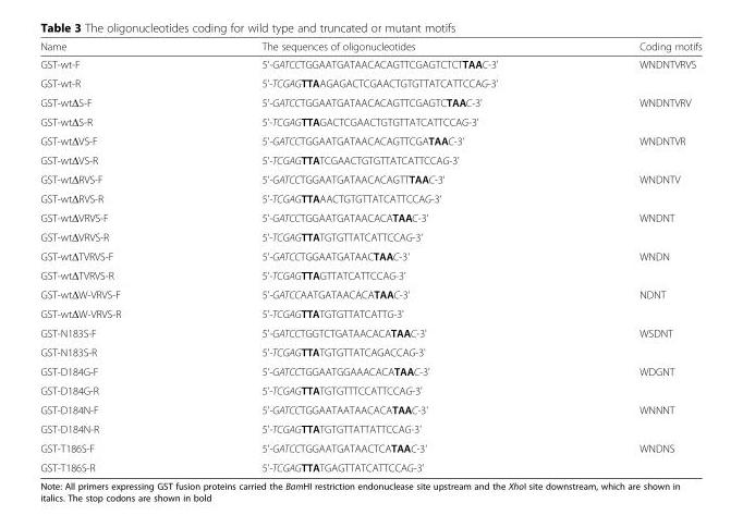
<table><thead><tr><td>Name</td><td>The sequences of oligonucleotides</td><td>Coding motifs</td></tr></thead><tbody><tr><td>GST-wt-F</td><td>5&#x27;-GATCCTGGAATGATAACACAGTTCGAGTCTCTTAAC-3&#x27;</td><td>WNDNTVRVS</td></tr><tr><td>GST-wt-R</td><td>5&#x27;-TCGAGTTAAGAGACTCGAACTGTGTTATCATTCCAG-3&#x27;</td><td></td></tr><tr><td>GST-wtΔS-F</td><td>5&#x27;-GATCCTGGAATGATAACACAGTTCGAGTCTAAC-3&#x27;</td><td>WNDNTVRV</td></tr><tr><td>GST-wtΔS-R</td><td>5&#x27;-TCGAGTTAGACTCGAACTGTGTTATCATTCCAG-3&#x27;</td><td></td></tr><tr><td>GST-wtΔVS-F</td><td>5&#x27;-GATCCTGGAATGATAACACAGTTCGATAAC-3&#x27;</td><td>WNDNTVR</td></tr><tr><td>GST-wtΔVS-R</td><td>5&#x27;-TCGAGTTATCGAACTGTGTTATCATTCCAG-3&#x27;</td><td></td></tr><tr><td>GST-wtΔRVS-F</td><td>5&#x27;-GATCCTGGAATGATAACACAGTTTAAC-3&#x27;</td><td>WNDNTV</td></tr><tr><td>GST-wtΔRVS-R</td><td>5&#x27;-TCGAGTTAAACTGTGTTATCATTCCAG-3&#x27;</td><td></td></tr><tr><td>GST-wtΔVRVS-F</td><td>5&#x27;-GATCCTGGAATGATAACACATAAC-3&#x27;</td><td>WNDNT</td></tr><tr><td>GST-wtΔVRVS-R</td><td>5&#x27;-TCGAGTTATGTGTTATCATTCCAG-3&#x27;</td><td></td></tr><tr><td>GST-wtΔTVRVS-F</td><td>5&#x27;-GATCCTGGAATGATAACTAAC-3&#x27;</td><td>WNDN</td></tr><tr><td>GST-wtΔTVRVS-R</td><td>5&#x27;-TCGAGTTAGTTATCATTCCAG-3&#x27;</td><td></td></tr><tr><td>GST-wtΔW-VRVS-F</td><td>5&#x27;-GATCCAATGATAACACATAAC-3&#x27;</td><td>NDNT</td></tr><tr><td>GST-wtΔW-VRVS-R</td><td>5&#x27;-TCGAGTTATGTGTTATCATTG-3&#x27;</td><td></td></tr><tr><td>GST-N183S-F</td><td>5&#x27;-GATCCTGGTCTGATAACACATAAC-3&#x27;</td><td>WSDNT</td></tr><tr><td>GST-N183S-R</td><td>5&#x27;-TCGAGTTATGTGTTATCAGACCAG-3&#x27;</td><td></td></tr><tr><td>GST-D184G-F</td><td>5&#x27;-GATCCTGGAATGGAAACACATAAC-3&#x27;</td><td>WDGNT</td></tr><tr><td>GST-D184G-R</td><td>5&#x27;-TCGAGTTATGTGTTTCCATTCCAG-3&#x27;</td><td></td></tr><tr><td>GST-D184N-F</td><td>5&#x27;-GATCCTGGAATAATAACACATAAC-3&#x27;</td><td>WNNNT</td></tr><tr><td>GST-D184N-R</td><td>5&#x27;-TCGAGTTATGTGTTATTATTCCAG-3&#x27;</td><td></td></tr><tr><td>GST-T186S-F</td><td>5&#x27;-GATCCTGGAATGATAACTCATAAC-3&#x27;</td><td>WNDNS</td></tr><tr><td>GST-T186S-R</td><td>5&#x27;-TCGAGTTATGAGTTATCATTCCAG-3&#x27;</td><td></td></tr></tbody></table>